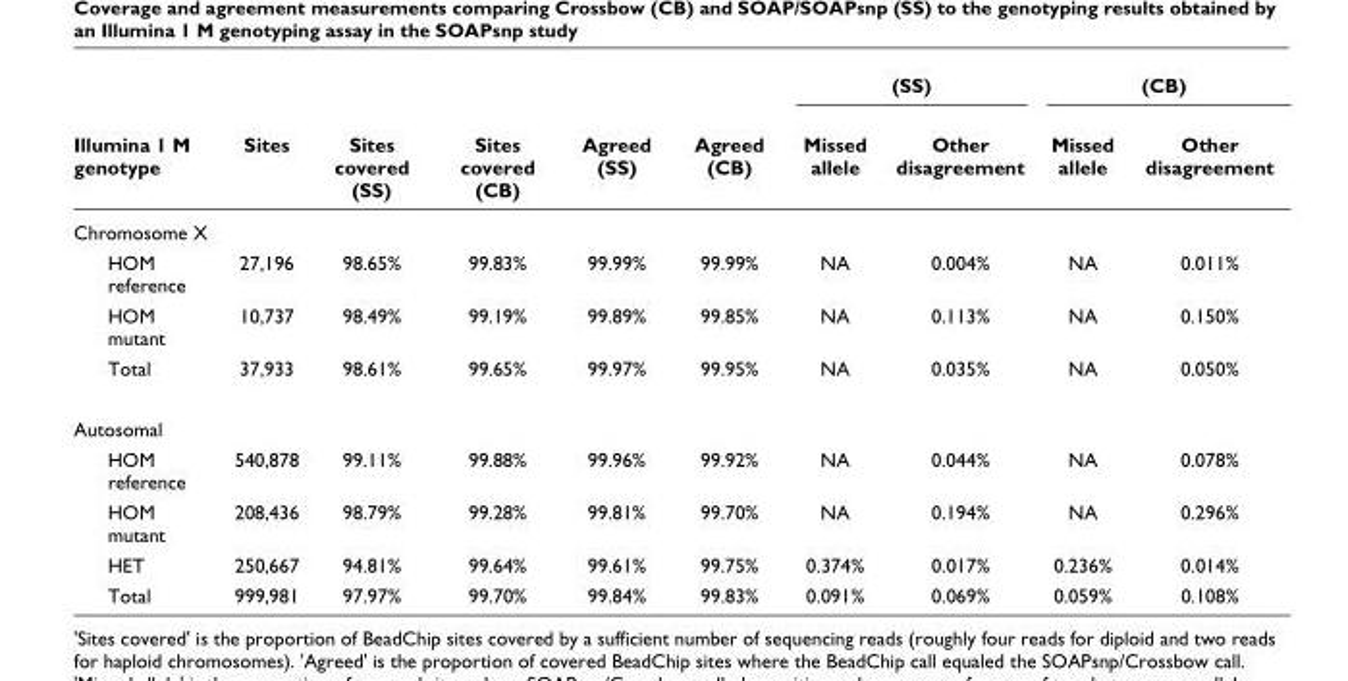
<table><thead><tr><td rowspan="2">Illumina 1 M genotype</td><td rowspan="2">Sites</td><td rowspan="2">Sites covered (SS)</td><td rowspan="2">Sites covered (CB)</td><td rowspan="2">Agreed (SS)</td><td rowspan="2">Agreed (CB)</td><td colspan="2">(SS)</td><td colspan="2">(CB)</td></tr><tr><td>Missed allele</td><td>Other disagreement</td><td>Missed allele</td><td>Other disagreement</td></tr></thead><tbody><tr><td colspan="10">Chromosome X</td></tr><tr><td>HOM reference</td><td>27,196</td><td>98.65%</td><td>99.83%</td><td>99.99%</td><td>99.99%</td><td>NA</td><td>0.004%</td><td>NA</td><td>0.011%</td></tr><tr><td>HOM mutant</td><td>10,737</td><td>98.49%</td><td>99.19%</td><td>99.89%</td><td>99.85%</td><td>NA</td><td>0.113%</td><td>NA</td><td>0.150%</td></tr><tr><td>Total</td><td>37,933</td><td>98.61%</td><td>99.65%</td><td>99.97%</td><td>99.95%</td><td>NA</td><td>0.035%</td><td>NA</td><td>0.050%</td></tr><tr><td colspan="10">Autosomal</td></tr><tr><td>HOM reference</td><td>540,878</td><td>99.11%</td><td>99.88%</td><td>99.96%</td><td>99.92%</td><td>NA</td><td>0.044%</td><td>NA</td><td>0.078%</td></tr><tr><td>HOM mutant</td><td>208,436</td><td>98.79%</td><td>99.28%</td><td>99.81%</td><td>99.70%</td><td>NA</td><td>0.194%</td><td>NA</td><td>0.296%</td></tr><tr><td>HET</td><td>250,667</td><td>94.81%</td><td>99.64%</td><td>99.61%</td><td>99.75%</td><td>0.374%</td><td>0.017%</td><td>0.236%</td><td>0.014%</td></tr><tr><td>Total</td><td>999,981</td><td>97.97%</td><td>99.70%</td><td>99.84%</td><td>99.83%</td><td>0.091%</td><td>0.069%</td><td>0.059%</td><td>0.108%</td></tr></tbody></table>